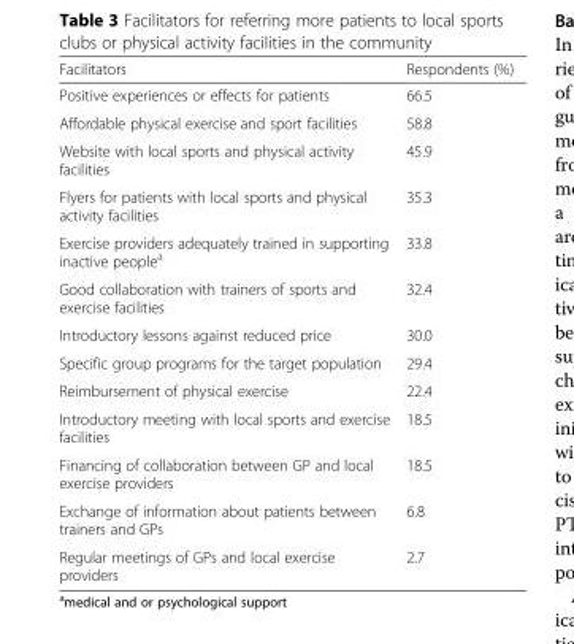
<table><thead><tr><td>Facilitators</td><td>Respondents (%)</td></tr></thead><tbody><tr><td>Positive experiences or effects for patients</td><td>66.5</td></tr><tr><td>Affordable physical exercise and sport facilities</td><td>58.8</td></tr><tr><td>Website with local sports and physical activity facilities</td><td>45.9</td></tr><tr><td>Flyers for patients with local sports and physical activity facilities</td><td>35.3</td></tr><tr><td>Exercise providers adequately trained in supporting inactive people<sup>a</sup></td><td>33.8</td></tr><tr><td>Good collaboration with trainers of sports and exercise facilities</td><td>32.4</td></tr><tr><td>Introductory lessons against reduced price</td><td>30.0</td></tr><tr><td>Specific group programs for the target population</td><td>29.4</td></tr><tr><td>Reimbursement of physical exercise</td><td>22.4</td></tr><tr><td>Introductory meeting with local sports and exercise facilities</td><td>18.5</td></tr><tr><td>Financing of collaboration between GP and local exercise providers</td><td>18.5</td></tr><tr><td>Exchange of information about patients between trainers and GPs</td><td>6.8</td></tr><tr><td>Regular meetings of GPs and local exercise providers</td><td>2.7</td></tr></tbody></table>